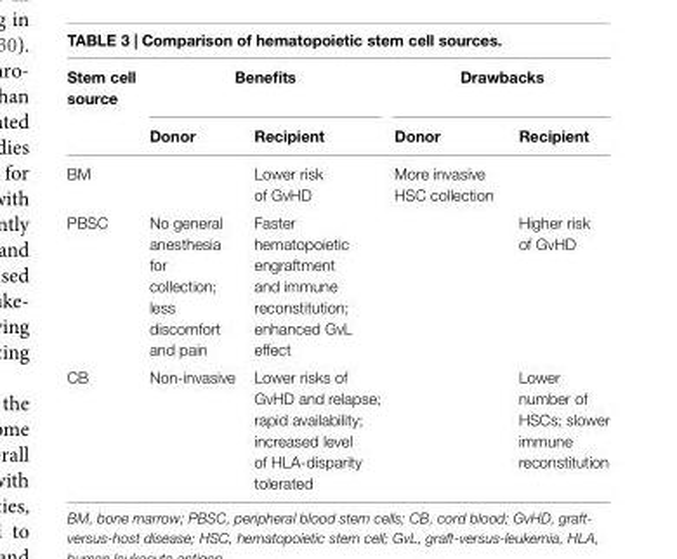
<table><thead><tr><td rowspan="2">Stem cell source</td><td colspan="2">Benefits</td><td colspan="2">Drawbacks</td></tr><tr><td>Donor</td><td>Recipient</td><td>Donor</td><td>Recipient</td></tr></thead><tbody><tr><td>BM</td><td></td><td>Lower risk of GvHD</td><td>More invasive HSC collection</td><td></td></tr><tr><td>PBSC</td><td>No general anesthesia for collection; less discomfort and pain</td><td>Faster hematopoietic engraftment and immune reconstitution; enhanced GvL effect</td><td></td><td>Higher risk of GvHD</td></tr><tr><td>CB</td><td>Non-invasive</td><td>Lower risks of GvHD and relapse; rapid availability; increased level of HLA-disparity tolerated</td><td></td><td>Lower number of HSCs; slower immune reconstitution</td></tr></tbody></table>